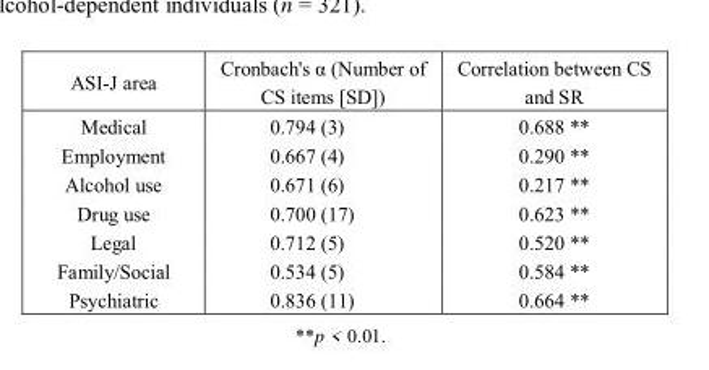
<table><thead><tr><td>ASI-J area</td><td>Cronbach&#x27;s α (Number of CS items [SD])</td><td>Correlation between CS and SR</td></tr></thead><tbody><tr><td>Medical</td><td>0.794 (3)</td><td>0.688 **</td></tr><tr><td>Employment</td><td>0.667 (4)</td><td>0.290 **</td></tr><tr><td>Alcohol use</td><td>0.671 (6)</td><td>0.217 **</td></tr><tr><td>Drug use</td><td>0.700 (17)</td><td>0.623 **</td></tr><tr><td>Legal</td><td>0.712 (5)</td><td>0.520 **</td></tr><tr><td>Family/Social</td><td>0.534 (5)</td><td>0.584 **</td></tr><tr><td>Psychiatric</td><td>0.836 (11)</td><td>0.664 **</td></tr></tbody></table>